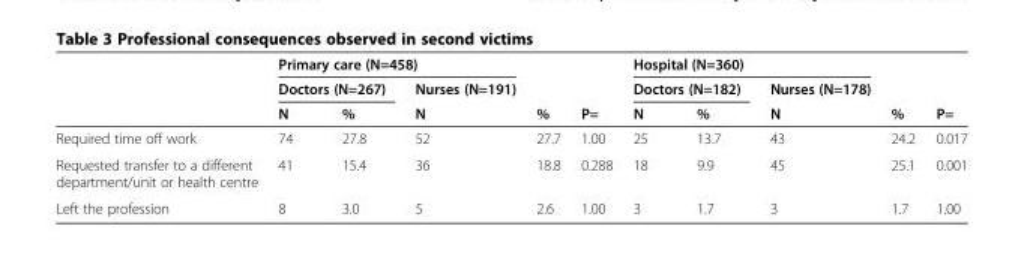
<table><thead><tr><td rowspan="3"></td><td colspan="3">Primary care (N=458)</td><td rowspan="3">%</td><td rowspan="3">P=</td><td colspan="3">Hospital (N=360)</td><td rowspan="3">%</td><td rowspan="3">P=</td></tr><tr><td colspan="2">Doctors (N=267)</td><td rowspan="2">Nurses (N=191) N</td><td colspan="2">Doctors (N=182)</td><td rowspan="2">Nurses (N=178) N</td></tr><tr><td>N</td><td>%</td><td>N</td><td>%</td></tr></thead><tbody><tr><td>Required time off work</td><td>74</td><td>27.8</td><td>52</td><td>27.7</td><td>1.00</td><td>25</td><td>13.7</td><td>43</td><td>24.2</td><td>0.017</td></tr><tr><td>Requested transfer to a different department/unit or health centre</td><td>41</td><td>15.4</td><td>36</td><td>18.8</td><td>0.288</td><td>18</td><td>9.9</td><td>45</td><td>25.1</td><td>0.001</td></tr><tr><td>Left the profession</td><td>8</td><td>3.0</td><td>5</td><td>2.6</td><td>1.00</td><td>3</td><td>1.7</td><td>3</td><td>1.7</td><td>1.00</td></tr></tbody></table>